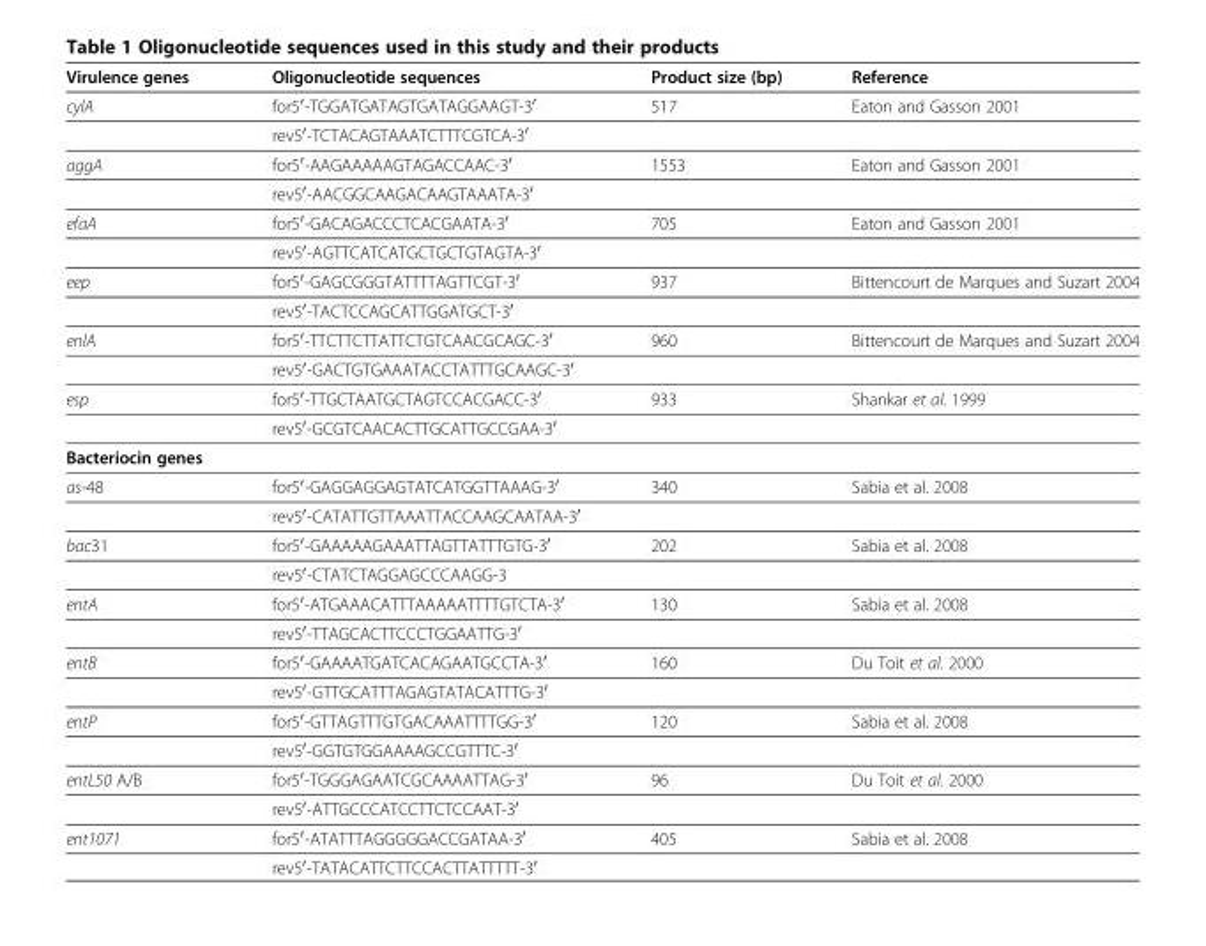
<table><thead><tr><td>Virulence genes</td><td>Oligonucleotide sequences</td><td>Product size (bp)</td><td>Reference</td></tr></thead><tbody><tr><td rowspan="2">cylA</td><td>for5′-TGGATGATAGTGATAGGAAGT-3′</td><td>517</td><td>Eaton and Gasson 2001</td></tr><tr><td>rev5′-TCTACAGTAAATCTTTCGTCA-3′</td><td></td><td></td></tr><tr><td rowspan="2">aggA</td><td>for5′-AAGAAAAAGTAGACCAAC-3′</td><td>1553</td><td>Eaton and Gasson 2001</td></tr><tr><td>rev5′-AACGGCAAGACAAGTAAATA-3′</td><td></td><td></td></tr><tr><td rowspan="2">efaA</td><td>for5′-GACAGACCCTCACGAATA-3′</td><td>705</td><td>Eaton and Gasson 2001</td></tr><tr><td>rev5′-AGTTCATCATGCTGCTGTAGTA-3′</td><td></td><td></td></tr><tr><td rowspan="2">eep</td><td>for5′-GAGCGGGTATTTTAGTTCGT-3′</td><td>937</td><td>Bittencourt de Marques and Suzart 2004</td></tr><tr><td>rev5′-TACTCCAGCATTGGATGCT-3′</td><td></td><td></td></tr><tr><td rowspan="2">enlA</td><td>for5′-TTCTTCTTATTCTGTCAACGCAGC-3′</td><td>960</td><td>Bittencourt de Marques and Suzart 2004</td></tr><tr><td>rev5′-GACTGTGAAATACCTATTTGCAAGC-3′</td><td></td><td></td></tr><tr><td rowspan="2">esp</td><td>for5′-TTGCTAATGCTAGTCCACGACC-3′</td><td>933</td><td>Shankar et al. 1999</td></tr><tr><td>rev5′-GCGTCAACACTTGCATTGCCGAA-3′</td><td></td><td></td></tr><tr><td colspan="4">Bacteriocin genes</td></tr><tr><td rowspan="2">as-48</td><td>for5′-GAGGAGGAGTATCATGGTTAAAG-3′</td><td>340</td><td>Sabia et al. 2008</td></tr><tr><td>rev5′-CATATTGTTAAATTACCAAGCAATAA-3′</td><td></td><td></td></tr><tr><td rowspan="2">bac31</td><td>for5′-GAAAAAGAAATTAGTTATTTGTG-3′</td><td>202</td><td>Sabia et al. 2008</td></tr><tr><td>rev5′-CTATCTAGGAGCCCAAGG-3</td><td></td><td></td></tr><tr><td rowspan="2">entA</td><td>for5′-ATGAAACATTTAAAAATTTTGTCTA-3′</td><td>130</td><td>Sabia et al. 2008</td></tr><tr><td>rev5′-TTAGCACTTCCCTGGAATTG-3′</td><td></td><td></td></tr><tr><td rowspan="2">entB</td><td>for5′-GAAAATGATCACAGAATGCCTA-3′</td><td>160</td><td>Du Toit et al. 2000</td></tr><tr><td>rev5′-GTTGCATTTAGAGTATACATTTG-3′</td><td></td><td></td></tr><tr><td rowspan="2">entP</td><td>for5′-GTTAGTTTGTGACAAATTTTGG-3′</td><td>120</td><td>Sabia et al. 2008</td></tr><tr><td>rev5′-GGTGTGGAAAAGCCGTTTC-3′</td><td></td><td></td></tr><tr><td rowspan="2">entL50 A/B</td><td>for5′-TGGGAGAATCGCAAAATTAG-3′</td><td>96</td><td>Du Toit et al. 2000</td></tr><tr><td>rev5′-ATTGCCCATCCTTCTCCAAT-3′</td><td></td><td></td></tr><tr><td rowspan="2">ent1071</td><td>for5′-ATATTTAGGGGGACCGATAA-3′</td><td>405</td><td>Sabia et al. 2008</td></tr><tr><td>rev5′-TATACATTCTTCCACTTATTTTT-3′</td><td></td><td></td></tr></tbody></table>